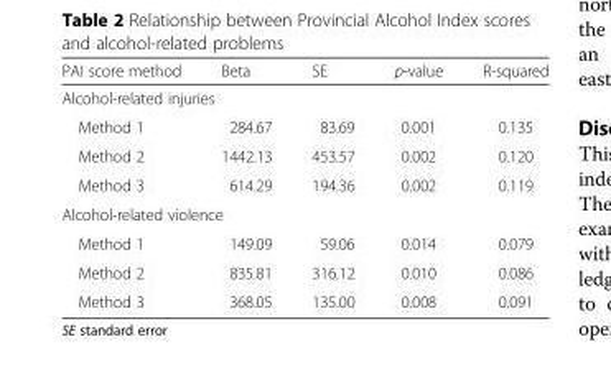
<table><thead><tr><td>PAI score method</td><td>Beta</td><td>SE</td><td>p-value</td><td>R-squared</td></tr></thead><tbody><tr><td colspan="5">Alcohol-related injuries</td></tr><tr><td>Method 1</td><td>284.67</td><td>83.69</td><td>0.001</td><td>0.135</td></tr><tr><td>Method 2</td><td>1442.13</td><td>453.57</td><td>0.002</td><td>0.120</td></tr><tr><td>Method 3</td><td>614.29</td><td>194.36</td><td>0.002</td><td>0.119</td></tr><tr><td colspan="5">Alcohol-related violence</td></tr><tr><td>Method 1</td><td>149.09</td><td>59.06</td><td>0.014</td><td>0.079</td></tr><tr><td>Method 2</td><td>835.81</td><td>316.12</td><td>0.010</td><td>0.086</td></tr><tr><td>Method 3</td><td>368.05</td><td>135.00</td><td>0.008</td><td>0.091</td></tr></tbody></table>